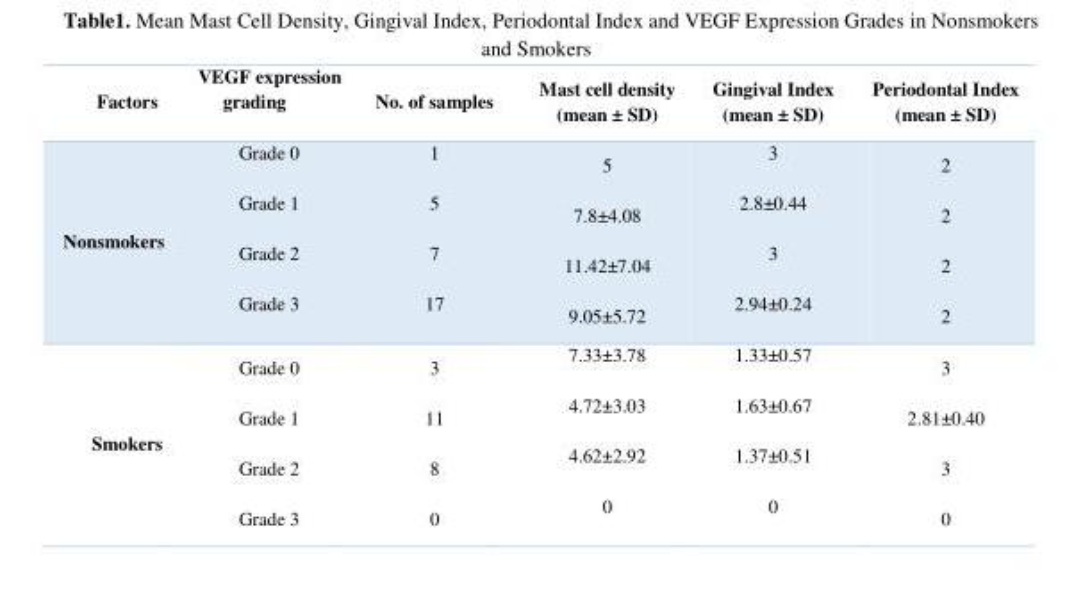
<table><thead><tr><td>Factors</td><td>VEGF expression grading</td><td>No. of samples</td><td>Mast cell density (mean ± SD)</td><td>Gingival Index (mean ± SD)</td><td>Periodontal Index (mean ± SD)</td></tr></thead><tbody><tr><td>Nonsmokers</td><td>Grade 0 Grade 1 Grade 2 Grade 3</td><td>1 5 7 17</td><td>5 7.8±4.08 11.42±7.04 9.05±5.72</td><td>3 2.8±0.44 3 2.94±0.24</td><td>2 2 2 2</td></tr><tr><td>Smokers</td><td>Grade 0 Grade 1 Grade 2 Grade 3</td><td>3 11 8 0</td><td>7.33±3.78 4.72±3.03 4.62±2.92 0</td><td>1.33±0.57 1.63±0.67 1.37±0.51 0</td><td>3 2.81±0.40 3 0</td></tr></tbody></table>